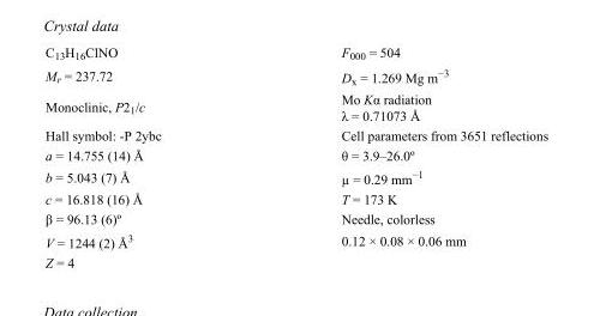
<table><tbody><tr><td>C<sub>13</sub>H<sub>16</sub>ClNO</td><td>F000 = 504</td></tr><tr><td>M<sub>r</sub> = 237.72</td><td>D<sub>x</sub> = 1.269 Mg m<sup>−3</sup></td></tr><tr><td>Monoclinic, P2<sub>1</sub>/c</td><td>Mo Kα radiation λ = 0.71073 Å</td></tr><tr><td>Hall symbol: -P 2ybc</td><td>Cell parameters from 3651 reflections</td></tr><tr><td>a = 14.755 (14) Å</td><td>θ = 3.9–26.0º</td></tr><tr><td>b = 5.043 (7) Å</td><td>µ = 0.29 mm<sup>−1</sup></td></tr><tr><td>c = 16.818 (16) Å</td><td>T = 173 K</td></tr><tr><td>β = 96.13 (6)º</td><td>Needle, colorless</td></tr><tr><td>V = 1244 (2) Å<sup>3</sup></td><td>0.12 × 0.08 × 0.06 mm</td></tr><tr><td>Z = 4</td><td></td></tr></tbody></table>